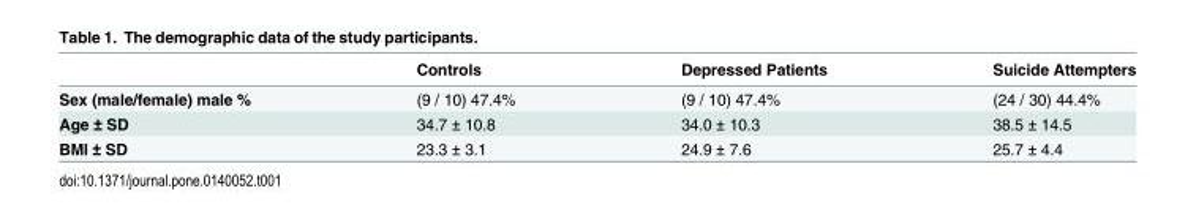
<table><thead><tr><td></td><td>Controls</td><td>Depressed Patients</td><td>Suicide Attempters</td></tr></thead><tbody><tr><td>Sex (male/female) male %</td><td>(9 / 10) 47.4%</td><td>(9 / 10) 47.4%</td><td>(24 / 30) 44.4%</td></tr><tr><td>Age ± SD</td><td>34.7 ± 10.8</td><td>34.0 ± 10.3</td><td>38.5 ± 14.5</td></tr><tr><td>BMI ± SD</td><td>23.3 ± 3.1</td><td>24.9 ± 7.6</td><td>25.7 ± 4.4</td></tr></tbody></table>